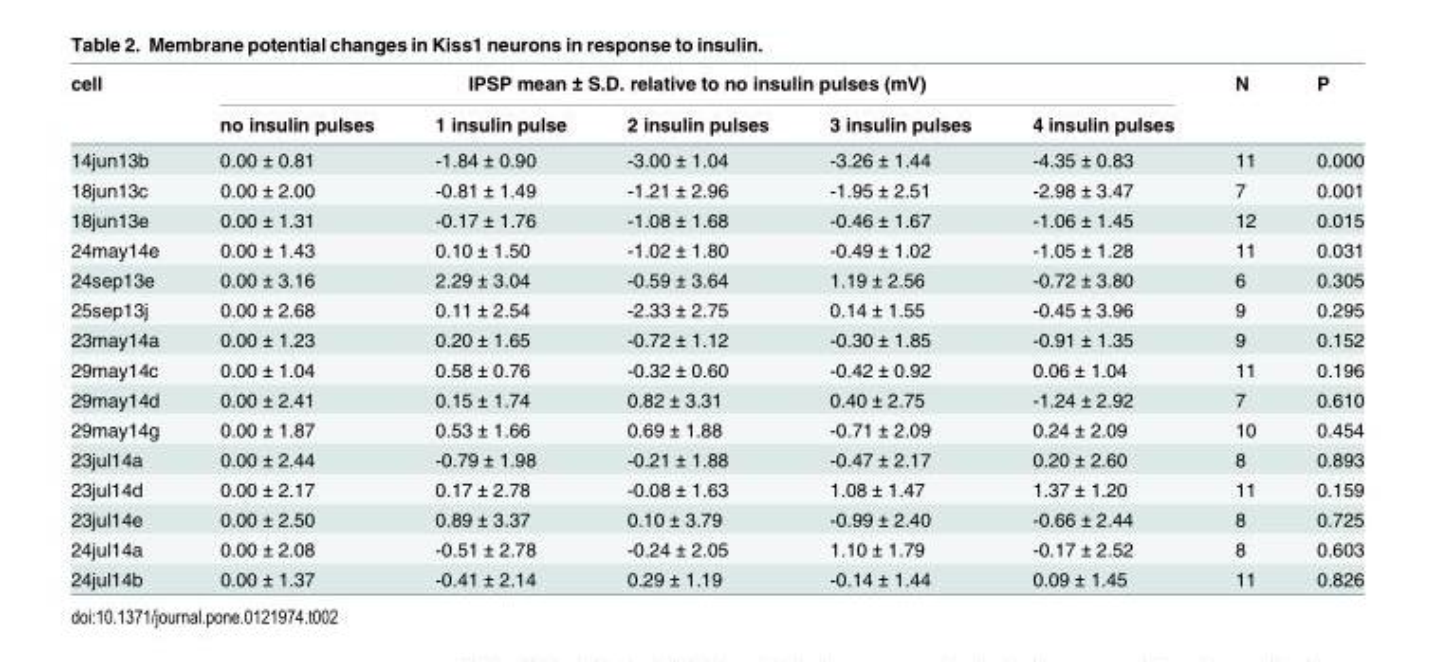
<table><thead><tr><td rowspan="2">cell</td><td colspan="5">IPSP mean ± S.D. relative to no insulin pulses (mV)</td><td rowspan="2">N</td><td rowspan="2">P</td></tr><tr><td>no insulin pulses</td><td>1 insulin pulse</td><td>2 insulin pulses</td><td>3 insulin pulses</td><td>4 insulin pulses</td></tr></thead><tbody><tr><td>14jun13b</td><td>0.00 ± 0.81</td><td>-1.84 ± 0.90</td><td>-3.00 ± 1.04</td><td>-3.26 ± 1.44</td><td>-4.35 ± 0.83</td><td>11</td><td>0.000</td></tr><tr><td>18jun13c</td><td>0.00 ± 2.00</td><td>-0.81 ± 1.49</td><td>-1.21 ± 2.96</td><td>-1.95 ± 2.51</td><td>-2.98 ± 3.47</td><td>7</td><td>0.001</td></tr><tr><td>18jun13e</td><td>0.00 ± 1.31</td><td>-0.17 ± 1.76</td><td>-1.08 ± 1.68</td><td>-0.46 ± 1.67</td><td>-1.06 ± 1.45</td><td>12</td><td>0.015</td></tr><tr><td>24may14e</td><td>0.00 ± 1.43</td><td>0.10 ± 1.50</td><td>-1.02 ± 1.80</td><td>-0.49 ± 1.02</td><td>-1.05 ± 1.28</td><td>11</td><td>0.031</td></tr><tr><td>24sep13e</td><td>0.00 ± 3.16</td><td>2.29 ± 3.04</td><td>-0.59 ± 3.64</td><td>1.19 ± 2.56</td><td>-0.72 ± 3.80</td><td>6</td><td>0.305</td></tr><tr><td>25sep13j</td><td>0.00 ± 2.68</td><td>0.11 ± 2.54</td><td>-2.33 ± 2.75</td><td>0.14 ± 1.55</td><td>-0.45 ± 3.96</td><td>9</td><td>0.295</td></tr><tr><td>23may14a</td><td>0.00 ± 1.23</td><td>0.20 ± 1.65</td><td>-0.72 ± 1.12</td><td>-0.30 ± 1.85</td><td>-0.91 ± 1.35</td><td>9</td><td>0.152</td></tr><tr><td>29may14c</td><td>0.00 ± 1.04</td><td>0.58 ± 0.76</td><td>-0.32 ± 0.60</td><td>-0.42 ± 0.92</td><td>0.06 ± 1.04</td><td>11</td><td>0.196</td></tr><tr><td>29may14d</td><td>0.00 ± 2.41</td><td>0.15 ± 1.74</td><td>0.82 ± 3.31</td><td>0.40 ± 2.75</td><td>-1.24 ± 2.92</td><td>7</td><td>0.610</td></tr><tr><td>29may14g</td><td>0.00 ± 1.87</td><td>0.53 ± 1.66</td><td>0.69 ± 1.88</td><td>-0.71 ± 2.09</td><td>0.24 ± 2.09</td><td>10</td><td>0.454</td></tr><tr><td>23jul14a</td><td>0.00 ± 2.44</td><td>-0.79 ± 1.98</td><td>-0.21 ± 1.88</td><td>-0.47 ± 2.17</td><td>0.20 ± 2.60</td><td>8</td><td>0.893</td></tr><tr><td>23jul14d</td><td>0.00 ± 2.17</td><td>0.17 ± 2.78</td><td>-0.08 ± 1.63</td><td>1.08 ± 1.47</td><td>1.37 ± 1.20</td><td>11</td><td>0.159</td></tr><tr><td>23jul14e</td><td>0.00 ± 2.50</td><td>0.89 ± 3.37</td><td>0.10 ± 3.79</td><td>-0.99 ± 2.40</td><td>-0.66 ± 2.44</td><td>8</td><td>0.725</td></tr><tr><td>24jul14a</td><td>0.00 ± 2.08</td><td>-0.51 ± 2.78</td><td>-0.24 ± 2.05</td><td>1.10 ± 1.79</td><td>-0.17 ± 2.52</td><td>8</td><td>0.603</td></tr><tr><td>24jul14b</td><td>0.00 ± 1.37</td><td>-0.41 ± 2.14</td><td>0.29 ± 1.19</td><td>-0.14 ± 1.44</td><td>0.09 ± 1.45</td><td>11</td><td>0.826</td></tr></tbody></table>